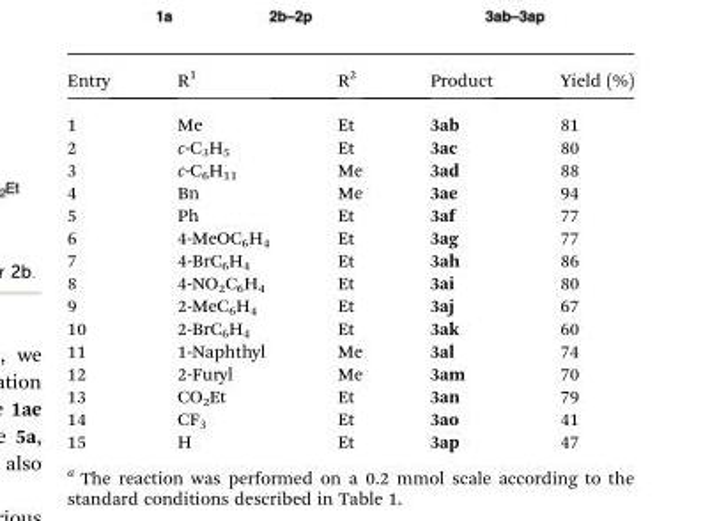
<table><thead><tr><td>Entry</td><td>R<sup>1</sup></td><td>R<sup>2</sup></td><td>Product</td><td>Yield (%)</td></tr></thead><tbody><tr><td>1</td><td>Me</td><td>Et</td><td>3ab</td><td>81</td></tr><tr><td>2</td><td>c-C<sub>3</sub>H<sub>5</sub></td><td>Et</td><td>3ac</td><td>80</td></tr><tr><td>3</td><td>c-C<sub>6</sub>H<sub>11</sub></td><td>Me</td><td>3ad</td><td>88</td></tr><tr><td>4</td><td>Bn</td><td>Me</td><td>3ae</td><td>94</td></tr><tr><td>5</td><td>Ph</td><td>Et</td><td>3af</td><td>77</td></tr><tr><td>6</td><td>4-MeOC<sub>6</sub>H<sub>4</sub></td><td>Et</td><td>3ag</td><td>77</td></tr><tr><td>7</td><td>4-BrC<sub>6</sub>H<sub>4</sub></td><td>Et</td><td>3ah</td><td>86</td></tr><tr><td>8</td><td>4-NO<sub>2</sub>C<sub>6</sub>H<sub>4</sub></td><td>Et</td><td>3ai</td><td>80</td></tr><tr><td>9</td><td>2-MeC<sub>6</sub>H<sub>4</sub></td><td>Et</td><td>3aj</td><td>67</td></tr><tr><td>10</td><td>2-BrC<sub>6</sub>H<sub>4</sub></td><td>Et</td><td>3ak</td><td>60</td></tr><tr><td>11</td><td>1-Naphthyl</td><td>Me</td><td>3al</td><td>74</td></tr><tr><td>12</td><td>2-Furyl</td><td>Me</td><td>3am</td><td>70</td></tr><tr><td>13</td><td>CO<sub>2</sub>Et</td><td>Et</td><td>3an</td><td>79</td></tr><tr><td>14</td><td>CF<sub>3</sub></td><td>Et</td><td>3ao</td><td>41</td></tr><tr><td>15</td><td>H</td><td>Et</td><td>3ap</td><td>47</td></tr></tbody></table>